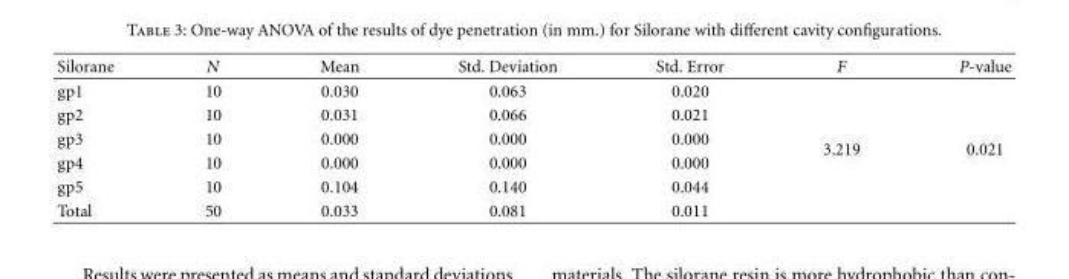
<table><thead><tr><td>Silorane</td><td>N</td><td>Mean</td><td>Std. Deviation</td><td>Std. Error</td><td>F</td><td>P-value</td></tr></thead><tbody><tr><td>gp1</td><td>10</td><td>0.030</td><td>0.063</td><td>0.020</td><td rowspan="6">3.219</td><td rowspan="6">0.021</td></tr><tr><td>gp2</td><td>10</td><td>0.031</td><td>0.066</td><td>0.021</td></tr><tr><td>gp3</td><td>10</td><td>0.000</td><td>0.000</td><td>0.000</td></tr><tr><td>gp4</td><td>10</td><td>0.000</td><td>0.000</td><td>0.000</td></tr><tr><td>gp5</td><td>10</td><td>0.104</td><td>0.140</td><td>0.044</td></tr><tr><td>Total</td><td>50</td><td>0.033</td><td>0.081</td><td>0.011</td></tr></tbody></table>